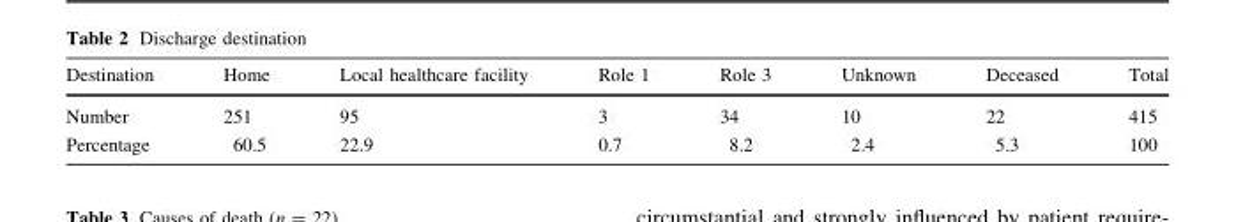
<table><thead><tr><td>Destination</td><td>Home</td><td>Local healthcare facility</td><td>Role 1</td><td>Role 3</td><td>Unknown</td><td>Deceased</td><td>Total</td></tr></thead><tbody><tr><td>Number</td><td>251</td><td>95</td><td>3</td><td>34</td><td>10</td><td>22</td><td>415</td></tr><tr><td>Percentage</td><td>60.5</td><td>22.9</td><td>0.7</td><td>8.2</td><td>2.4</td><td>5.3</td><td>100</td></tr></tbody></table>